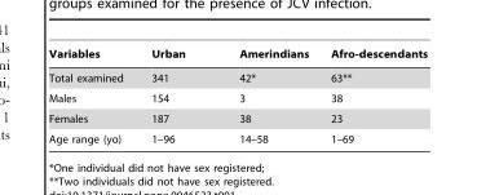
<table><thead><tr><td>Variables</td><td>Urban</td><td>Amerindians</td><td>Afro-descendants</td></tr></thead><tbody><tr><td>Total examined</td><td>341</td><td>42*</td><td>63**</td></tr><tr><td>Males</td><td>154</td><td>3</td><td>38</td></tr><tr><td>Females</td><td>187</td><td>38</td><td>23</td></tr><tr><td>Age range (yo)</td><td>1–96</td><td>14–58</td><td>1–69</td></tr></tbody></table>